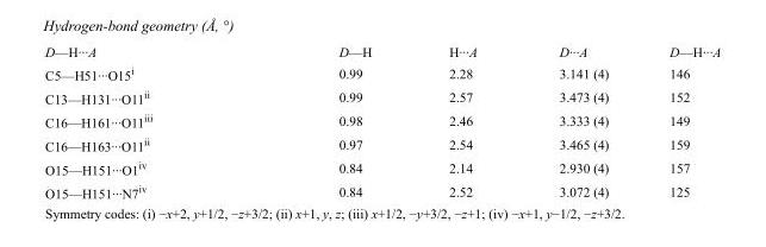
<table><tbody><tr><td>D—H···A</td><td>D—H</td><td>H···A</td><td>D···A</td><td>D—H···A</td></tr><tr><td>C5—H51···O15<sup>i</sup></td><td>0.99</td><td>2.28</td><td>3.141 (4)</td><td>146</td></tr><tr><td>C13—H131···O11<sup>ii</sup></td><td>0.99</td><td>2.57</td><td>3.473 (4)</td><td>152</td></tr><tr><td>C16—H161···O11<sup>iii</sup></td><td>0.98</td><td>2.46</td><td>3.333 (4)</td><td>149</td></tr><tr><td>C16—H163···O11<sup>ii</sup></td><td>0.97</td><td>2.54</td><td>3.465 (4)</td><td>159</td></tr><tr><td>O15—H151···O1<sup>iv</sup></td><td>0.84</td><td>2.14</td><td>2.930 (4)</td><td>157</td></tr><tr><td>O15—H151···N7<sup>iv</sup></td><td>0.84</td><td>2.52</td><td>3.072 (4)</td><td>125</td></tr></tbody></table>